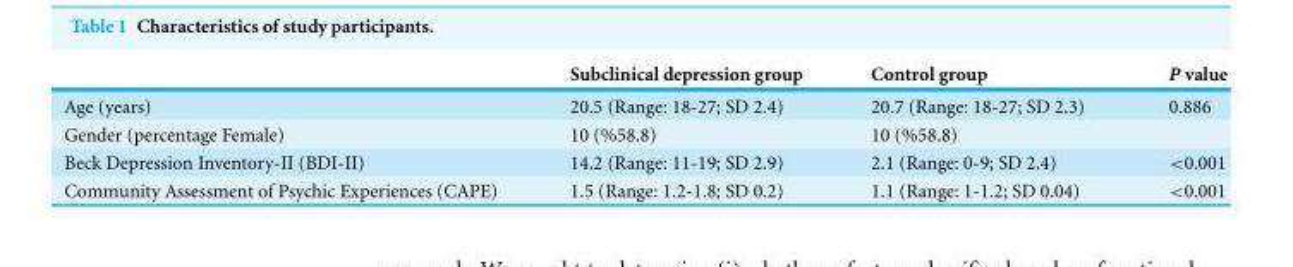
<table><thead><tr><td></td><td>Subclinical depression group</td><td>Control group</td><td>P value</td></tr></thead><tbody><tr><td>Age (years)</td><td>20.5 (Range: 18-27; SD 2.4)</td><td>20.7 (Range: 18-27; SD 2.3)</td><td>0.886</td></tr><tr><td>Gender (percentage Female)</td><td>10 (%58.8)</td><td>10 (%58.8)</td><td></td></tr><tr><td>Beck Depression Inventory-II (BDI-II)</td><td>14.2 (Range: 11-19; SD 2.9)</td><td>2.1 (Range: 0-9; SD 2.4)</td><td>&lt;0.001</td></tr><tr><td>Community Assessment of Psychic Experiences (CAPE)</td><td>1.5 (Range: 1.2-1.8; SD 0.2)</td><td>1.1 (Range: 1-1.2; SD 0.04)</td><td>&lt;0.001</td></tr></tbody></table>